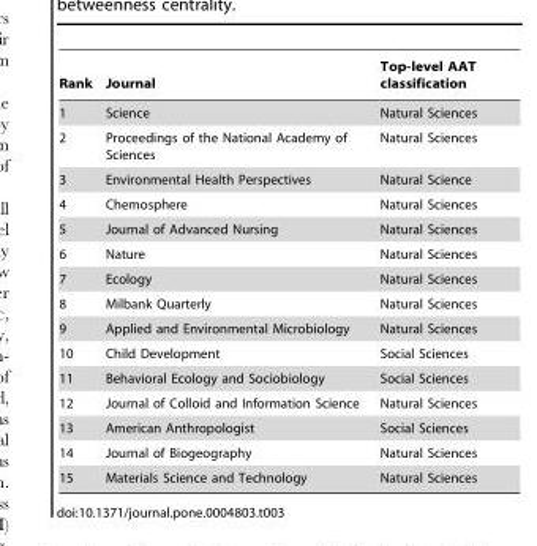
<table><thead><tr><td>Rank</td><td>Journal</td><td>Top-level AAT classification</td></tr></thead><tbody><tr><td>1</td><td>Science</td><td>Natural Sciences</td></tr><tr><td>2</td><td>Proceedings of the National Academy of Sciences</td><td>Natural Sciences</td></tr><tr><td>3</td><td>Environmental Health Perspectives</td><td>Natural Science</td></tr><tr><td>4</td><td>Chemosphere</td><td>Natural Sciences</td></tr><tr><td>5</td><td>Journal of Advanced Nursing</td><td>Natural Sciences</td></tr><tr><td>6</td><td>Nature</td><td>Natural Sciences</td></tr><tr><td>7</td><td>Ecology</td><td>Natural Sciences</td></tr><tr><td>8</td><td>Milbank Quarterly</td><td>Natural Sciences</td></tr><tr><td>9</td><td>Applied and Environmental Microbiology</td><td>Natural Sciences</td></tr><tr><td>10</td><td>Child Development</td><td>Social Sciences</td></tr><tr><td>11</td><td>Behavioral Ecology and Sociobiology</td><td>Social Sciences</td></tr><tr><td>12</td><td>Journal of Colloid and Information Science</td><td>Natural Sciences</td></tr><tr><td>13</td><td>American Anthropologist</td><td>Social Sciences</td></tr><tr><td>14</td><td>Journal of Biogeography</td><td>Natural Sciences</td></tr><tr><td>15</td><td>Materials Science and Technology</td><td>Natural Sciences</td></tr></tbody></table>